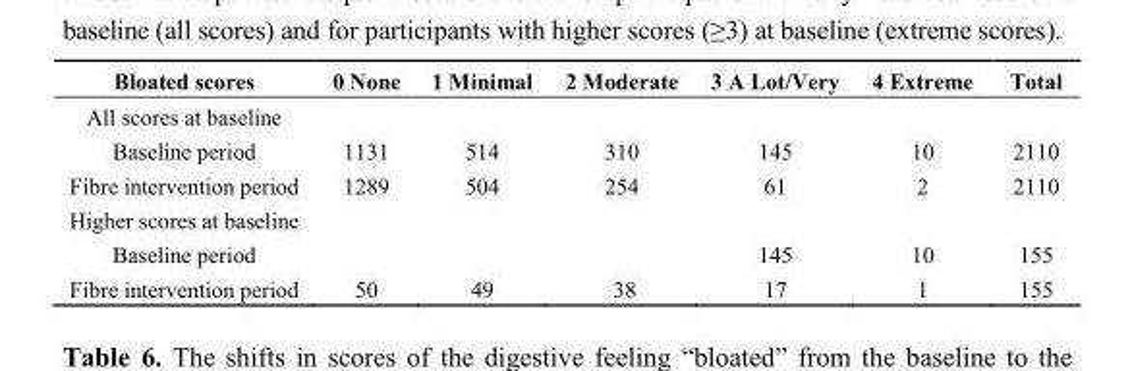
<table><thead><tr><td>Bloated scores</td><td>0 None</td><td>1 Minimal</td><td>2 Moderate</td><td>3 A Lot/Very</td><td>4 Extreme</td><td>Total</td></tr></thead><tbody><tr><td colspan="7">All scores at baseline</td></tr><tr><td>Baseline period</td><td>1131</td><td>514</td><td>310</td><td>145</td><td>10</td><td>2110</td></tr><tr><td>Fibre intervention period</td><td>1289</td><td>504</td><td>254</td><td>61</td><td>2</td><td>2110</td></tr><tr><td colspan="7">Higher scores at baseline</td></tr><tr><td>Baseline period</td><td></td><td></td><td></td><td>145</td><td>10</td><td>155</td></tr><tr><td>Fibre intervention period</td><td>50</td><td>49</td><td>38</td><td>17</td><td>1</td><td>155</td></tr></tbody></table>